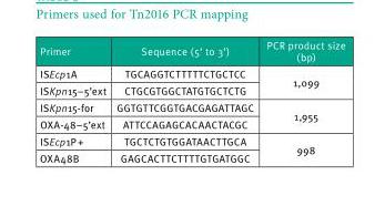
<table><thead><tr><td>Primer</td><td>Sequence (5’ to 3’)</td><td>PCR product size (bp)</td></tr></thead><tbody><tr><td>ISEcp1A</td><td>TGCAGGTCTTTTTCTGCTCC</td><td rowspan="2">1,099</td></tr><tr><td>ISKpn15–5’ext</td><td>CTGCGTGGCTATGTGCTCTG</td></tr><tr><td>ISKpn15-for</td><td>GGTGTTCGGTGACGAGATTAGC</td><td rowspan="2">1,955</td></tr><tr><td>OXA-48–5’ext</td><td>ATTCCAGAGCACAACTACGC</td></tr><tr><td>ISEcp1P +</td><td>TGCTCTGTGGATAACTTGCA</td><td rowspan="2">998</td></tr><tr><td>OXA48B</td><td>GAGCACTTCTTTTGTGATGGC</td></tr></tbody></table>